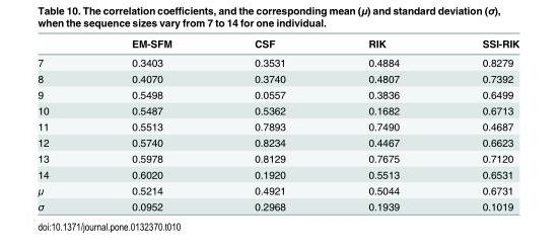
<table><thead><tr><td></td><td>EM-SFM</td><td>CSF</td><td>RIK</td><td>SSI-RIK</td></tr></thead><tbody><tr><td>7</td><td>0.3403</td><td>0.3531</td><td>0.4884</td><td>0.8279</td></tr><tr><td>8</td><td>0.4070</td><td>0.3740</td><td>0.4807</td><td>0.7392</td></tr><tr><td>9</td><td>0.5498</td><td>0.0557</td><td>0.3836</td><td>0.6499</td></tr><tr><td>10</td><td>0.5487</td><td>0.5362</td><td>0.1682</td><td>0.6713</td></tr><tr><td>11</td><td>0.5513</td><td>0.7893</td><td>0.7490</td><td>0.4687</td></tr><tr><td>12</td><td>0.5740</td><td>0.8234</td><td>0.4467</td><td>0.6623</td></tr><tr><td>13</td><td>0.5978</td><td>0.8129</td><td>0.7675</td><td>0.7120</td></tr><tr><td>14</td><td>0.6020</td><td>0.1920</td><td>0.5513</td><td>0.6531</td></tr><tr><td>μ</td><td>0.5214</td><td>0.4921</td><td>0.5044</td><td>0.6731</td></tr><tr><td>σ</td><td>0.0952</td><td>0.2968</td><td>0.1939</td><td>0.1019</td></tr></tbody></table>